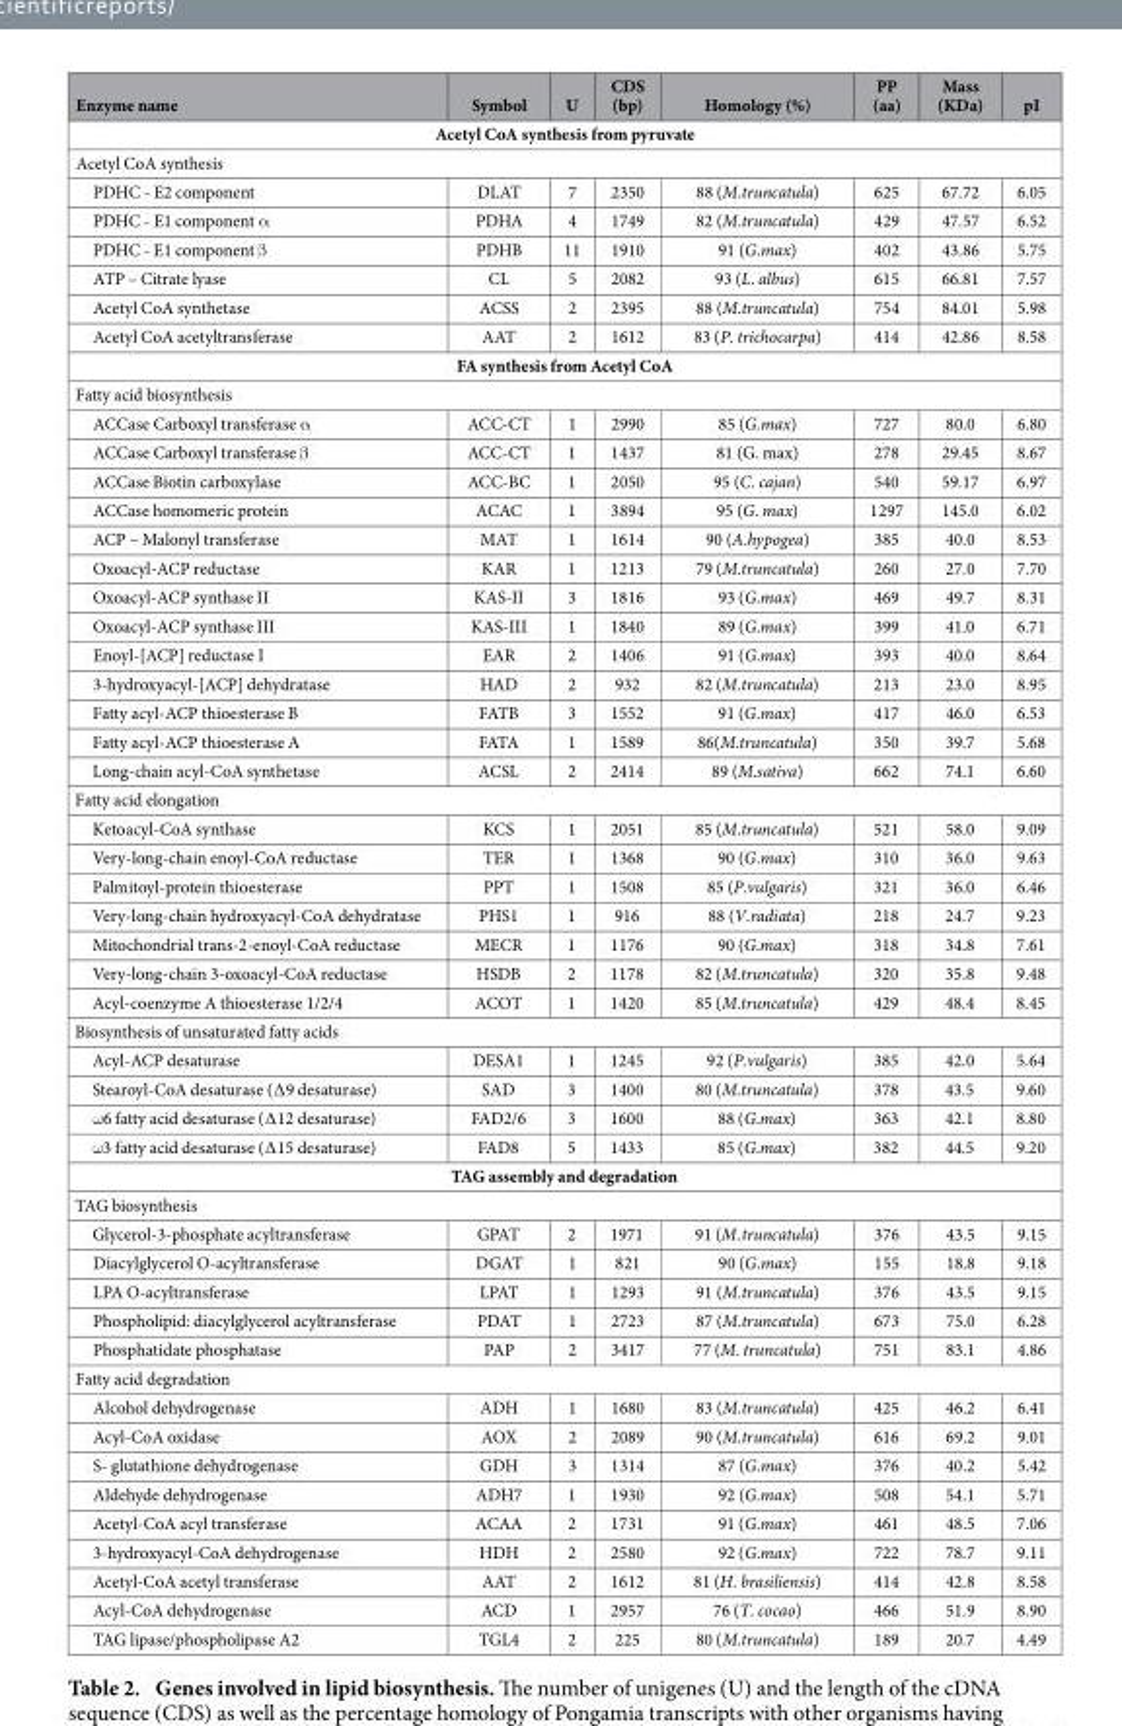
<table><thead><tr><td>Enzyme name</td><td>Symbol</td><td>U</td><td>CDS (bp)</td><td>Homology (%)</td><td>PP (aa)</td><td>Mass (KDa)</td><td>pI</td></tr><tr><td colspan="8">Acetyl CoA synthesis from pyruvate</td></tr></thead><tbody><tr><td colspan="8">Acetyl CoA synthesis</td></tr><tr><td>PDHC - E2 component</td><td>DLAT</td><td>7</td><td>2350</td><td>88 (M.truncatula)</td><td>625</td><td>67.72</td><td>6.05</td></tr><tr><td>PDHC - E1 component α</td><td>PDHA</td><td>4</td><td>1749</td><td>82 (M.truncatula)</td><td>429</td><td>47.57</td><td>6.52</td></tr><tr><td>PDHC - E1 component β</td><td>PDHB</td><td>11</td><td>1910</td><td>91 (G.max)</td><td>402</td><td>43.86</td><td>5.75</td></tr><tr><td>ATP – Citrate lyase</td><td>CL</td><td>5</td><td>2082</td><td>93 (L. albus)</td><td>615</td><td>66.81</td><td>7.57</td></tr><tr><td>Acetyl CoA synthetase</td><td>ACSS</td><td>2</td><td>2395</td><td>88 (M.truncatula)</td><td>754</td><td>84.01</td><td>5.98</td></tr><tr><td>Acetyl CoA acetyltransferase</td><td>AAT</td><td>2</td><td>1612</td><td>83 (P. trichocarpa)</td><td>414</td><td>42.86</td><td>8.58</td></tr><tr><td colspan="8">FA synthesis from Acetyl CoA</td></tr><tr><td colspan="8">Fatty acid biosynthesis</td></tr><tr><td>ACCase Carboxyl transferase α</td><td>ACC-CT</td><td>1</td><td>2990</td><td>85 (G.max)</td><td>727</td><td>80.0</td><td>6.80</td></tr><tr><td>ACCase Carboxyl transferase β</td><td>ACC-CT</td><td>1</td><td>1437</td><td>81 (G. max)</td><td>278</td><td>29.45</td><td>8.67</td></tr><tr><td>ACCase Biotin carboxylase</td><td>ACC-BC</td><td>1</td><td>2050</td><td>95 (C. cajan)</td><td>540</td><td>59.17</td><td>6.97</td></tr><tr><td>ACCase homomeric protein</td><td>ACAC</td><td>1</td><td>3894</td><td>95 (G. max)</td><td>1297</td><td>145.0</td><td>6.02</td></tr><tr><td>ACP – Malonyl transferase</td><td>MAT</td><td>1</td><td>1614</td><td>90 (A.hypogea)</td><td>385</td><td>40.0</td><td>8.53</td></tr><tr><td>Oxoacyl-ACP reductase</td><td>KAR</td><td>1</td><td>1213</td><td>79 (M.truncatula)</td><td>260</td><td>27.0</td><td>7.70</td></tr><tr><td>Oxoacyl-ACP synthase II</td><td>KAS-II</td><td>3</td><td>1816</td><td>93 (G.max)</td><td>469</td><td>49.7</td><td>8.31</td></tr><tr><td>Oxoacyl-ACP synthase III</td><td>KAS-III</td><td>1</td><td>1840</td><td>89 (G.max)</td><td>399</td><td>41.0</td><td>6.71</td></tr><tr><td>Enoyl-[ACP] reductase I</td><td>EAR</td><td>2</td><td>1406</td><td>91 (G.max)</td><td>393</td><td>40.0</td><td>8.64</td></tr><tr><td>3-hydroxyacyl-[ACP] dehydratase</td><td>HAD</td><td>2</td><td>932</td><td>82 (M.truncatula)</td><td>213</td><td>23.0</td><td>8.95</td></tr><tr><td>Fatty acyl-ACP thioesterase B</td><td>FATB</td><td>3</td><td>1552</td><td>91 (G.max)</td><td>417</td><td>46.0</td><td>6.53</td></tr><tr><td>Fatty acyl-ACP thioesterase A</td><td>FATA</td><td>1</td><td>1589</td><td>86(M.truncatula)</td><td>350</td><td>39.7</td><td>5.68</td></tr><tr><td>Long-chain acyl-CoA synthetase</td><td>ACSL</td><td>2</td><td>2414</td><td>89 (M.sativa)</td><td>662</td><td>74.1</td><td>6.60</td></tr><tr><td colspan="8">Fatty acid elongation</td></tr><tr><td>Ketoacyl-CoA synthase</td><td>KCS</td><td>1</td><td>2051</td><td>85 (M.truncatula)</td><td>521</td><td>58.0</td><td>9.09</td></tr><tr><td>Very-long-chain enoyl-CoA reductase</td><td>TER</td><td>1</td><td>1368</td><td>90 (G.max)</td><td>310</td><td>36.0</td><td>9.63</td></tr><tr><td>Palmitoyl-protein thioesterase</td><td>PPT</td><td>1</td><td>1508</td><td>85 (P.vulgaris)</td><td>321</td><td>36.0</td><td>6.46</td></tr><tr><td>Very-long-chain hydroxyacyl-CoA dehydratase</td><td>PHS1</td><td>1</td><td>916</td><td>88 (V.radiata)</td><td>218</td><td>24.7</td><td>9.23</td></tr><tr><td>Mitochondrial trans-2-enoyl-CoA reductase</td><td>MECR</td><td>1</td><td>1176</td><td>90 (G.max)</td><td>318</td><td>34.8</td><td>7.61</td></tr><tr><td>Very-long-chain 3-oxoacyl-CoA reductase</td><td>HSDB</td><td>2</td><td>1178</td><td>82 (M.truncatula)</td><td>320</td><td>35.8</td><td>9.48</td></tr><tr><td>Acyl-coenzyme A thioesterase 1/2/4</td><td>ACOT</td><td>1</td><td>1420</td><td>85 (M.truncatula)</td><td>429</td><td>48.4</td><td>8.45</td></tr><tr><td colspan="8">Biosynthesis of unsaturated fatty acids</td></tr><tr><td>Acyl-ACP desaturase</td><td>DESA1</td><td>1</td><td>1245</td><td>92 (P.vulgaris)</td><td>385</td><td>42.0</td><td>5.64</td></tr><tr><td>Stearoyl-CoA desaturase (∆ 9 desaturase)</td><td>SAD</td><td>3</td><td>1400</td><td>80 (M.truncatula)</td><td>378</td><td>43.5</td><td>9.60</td></tr><tr><td>ω 6 fatty acid desaturase (∆ 12 desaturase)</td><td>FAD2/6</td><td>3</td><td>1600</td><td>88 (G.max)</td><td>363</td><td>42.1</td><td>8.80</td></tr><tr><td>ω 3 fatty acid desaturase (∆ 15 desaturase)</td><td>FAD8</td><td>5</td><td>1433</td><td>85 (G.max)</td><td>382</td><td>44.5</td><td>9.20</td></tr><tr><td colspan="8">TAG assembly and degradation</td></tr><tr><td colspan="8">TAG biosynthesis</td></tr><tr><td>Glycerol-3-phosphate acyltransferase</td><td>GPAT</td><td>2</td><td>1971</td><td>91 (M.truncatula)</td><td>376</td><td>43.5</td><td>9.15</td></tr><tr><td>Diacylglycerol O-acyltransferase</td><td>DGAT</td><td>1</td><td>821</td><td>90 (G.max)</td><td>155</td><td>18.8</td><td>9.18</td></tr><tr><td>LPA O-acyltransferase</td><td>LPAT</td><td>1</td><td>1293</td><td>91 (M.truncatula)</td><td>376</td><td>43.5</td><td>9.15</td></tr><tr><td>Phospholipid: diacylglycerol acyltransferase</td><td>PDAT</td><td>1</td><td>2723</td><td>87 (M.truncatula)</td><td>673</td><td>75.0</td><td>6.28</td></tr><tr><td>Phosphatidate phosphatase</td><td>PAP</td><td>2</td><td>3417</td><td>77 (M. truncatula)</td><td>751</td><td>83.1</td><td>4.86</td></tr><tr><td colspan="8">Fatty acid degradation</td></tr><tr><td>Alcohol dehydrogenase</td><td>ADH</td><td>1</td><td>1680</td><td>83 (M.truncatula)</td><td>425</td><td>46.2</td><td>6.41</td></tr><tr><td>Acyl-CoA oxidase</td><td>AOX</td><td>2</td><td>2089</td><td>90 (M.truncatula)</td><td>616</td><td>69.2</td><td>9.01</td></tr><tr><td>S- glutathione dehydrogenase</td><td>GDH</td><td>3</td><td>1314</td><td>87 (G.max)</td><td>376</td><td>40.2</td><td>5.42</td></tr><tr><td>Aldehyde dehydrogenase</td><td>ADH7</td><td>1</td><td>1930</td><td>92 (G.max)</td><td>508</td><td>54.1</td><td>5.71</td></tr><tr><td>Acetyl-CoA acyl transferase</td><td>ACAA</td><td>2</td><td>1731</td><td>91 (G.max)</td><td>461</td><td>48.5</td><td>7.06</td></tr><tr><td>3-hydroxyacyl-CoA dehydrogenase</td><td>HDH</td><td>2</td><td>2580</td><td>92 (G.max)</td><td>722</td><td>78.7</td><td>9.11</td></tr><tr><td>Acetyl-CoA acetyl transferase</td><td>AAT</td><td>2</td><td>1612</td><td>81 (H. brasiliensis)</td><td>414</td><td>42.8</td><td>8.58</td></tr><tr><td>Acyl-CoA dehydrogenase</td><td>ACD</td><td>1</td><td>2957</td><td>76 (T. cocao)</td><td>466</td><td>51.9</td><td>8.90</td></tr><tr><td>TAG lipase/phospholipase A2</td><td>TGL4</td><td>2</td><td>225</td><td>80 (M.truncatula)</td><td>189</td><td>20.7</td><td>4.49</td></tr></tbody></table>